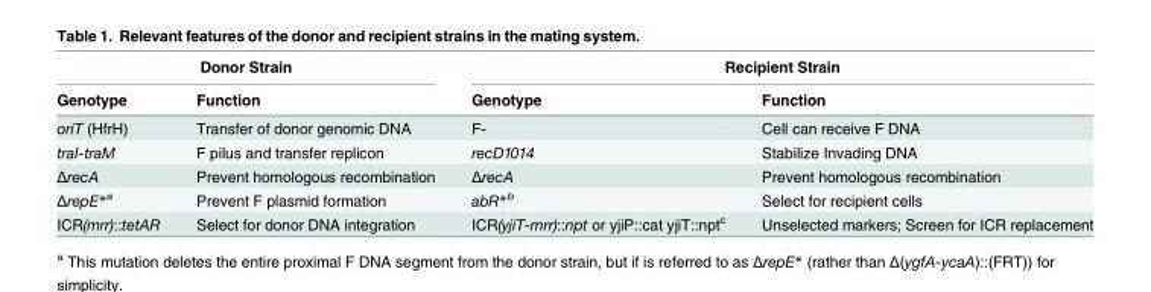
<table><thead><tr><td colspan="2">Donor Strain</td><td colspan="2">Recipient Strain</td></tr><tr><td>Genotype</td><td>Function</td><td>Genotype</td><td>Function</td></tr></thead><tbody><tr><td>oriT (HfrH)</td><td>Transfer of donor genomic DNA</td><td>F-</td><td>Cell can receive F DNA</td></tr><tr><td>traI-traM</td><td>F pilus and transfer replicon</td><td>recD1014</td><td>Stabilize Invading DNA</td></tr><tr><td>ΔrecA</td><td>Prevent homologous recombination</td><td>ΔrecA</td><td>Prevent homologous recombination</td></tr><tr><td>ΔrepE*<sup>a</sup></td><td>Prevent F plasmid formation</td><td>abR*<sup>b</sup></td><td>Select for recipient cells</td></tr><tr><td>ICR(mrr)::tetAR</td><td>Select for donor DNA integration</td><td>ICR(yjiT-mrr)::npt or yjiP::cat yjiT::npt<sup>c</sup></td><td>Unselected markers; Screen for ICR replacement</td></tr></tbody></table>